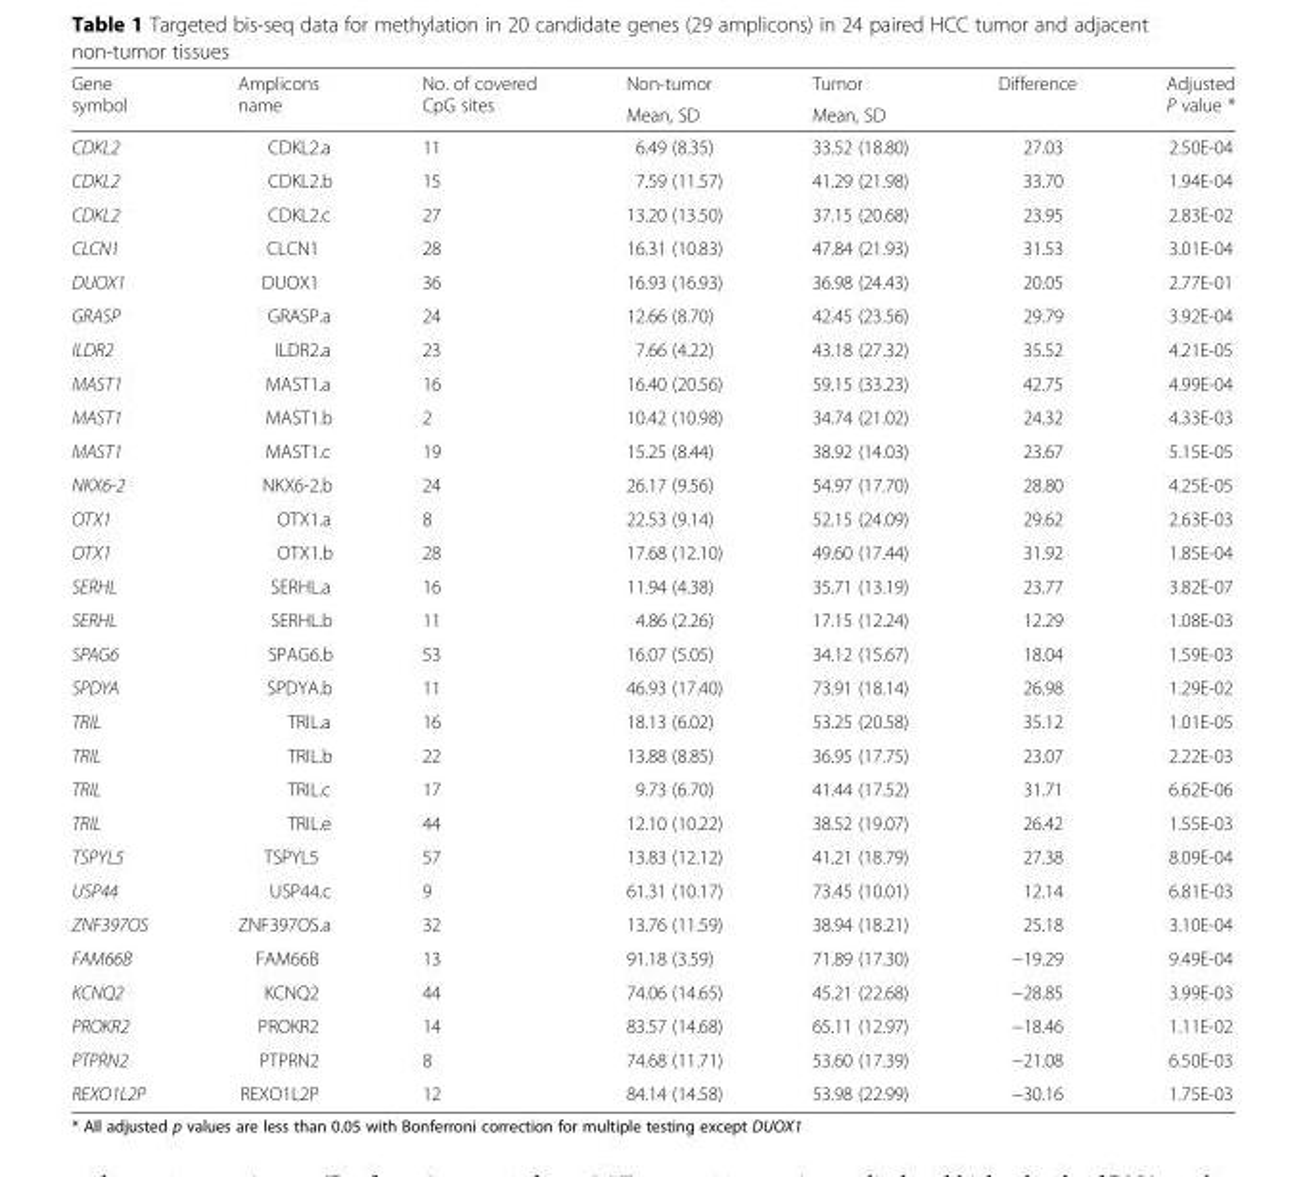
<table><thead><tr><td rowspan="2">Gene symbol</td><td rowspan="2">Amplicons name</td><td rowspan="2">No. of covered CpG sites</td><td rowspan="2">Non-tumor Mean, SD</td><td rowspan="2">Tumor Mean, SD</td><td rowspan="2">Difference</td><td rowspan="2">Adjusted P value *</td></tr><tr></tr></thead><tbody><tr><td>CDKL2</td><td>CDKL2.a</td><td>11</td><td>6.49 (8.35)</td><td>33.52 (18.80)</td><td>27.03</td><td>2.50E-04</td></tr><tr><td>CDKL2</td><td>CDKL2.b</td><td>15</td><td>7.59 (11.57)</td><td>41.29 (21.98)</td><td>33.70</td><td>1.94E-04</td></tr><tr><td>CDKL2</td><td>CDKL2.c</td><td>27</td><td>13.20 (13.50)</td><td>37.15 (20.68)</td><td>23.95</td><td>2.83E-02</td></tr><tr><td>CLCN1</td><td>CLCN1</td><td>28</td><td>16.31 (10.83)</td><td>47.84 (21.93)</td><td>31.53</td><td>3.01E-04</td></tr><tr><td>DUOX1</td><td>DUOX1</td><td>36</td><td>16.93 (16.93)</td><td>36.98 (24.43)</td><td>20.05</td><td>2.77E-01</td></tr><tr><td>GRASP</td><td>GRASP.a</td><td>24</td><td>12.66 (8.70)</td><td>42.45 (23.56)</td><td>29.79</td><td>3.92E-04</td></tr><tr><td>ILDR2</td><td>ILDR2.a</td><td>23</td><td>7.66 (4.22)</td><td>43.18 (27.32)</td><td>35.52</td><td>4.21E-05</td></tr><tr><td>MAST1</td><td>MAST1.a</td><td>16</td><td>16.40 (20.56)</td><td>59.15 (33.23)</td><td>42.75</td><td>4.99E-04</td></tr><tr><td>MAST1</td><td>MAST1.b</td><td>2</td><td>10.42 (10.98)</td><td>34.74 (21.02)</td><td>24.32</td><td>4.33E-03</td></tr><tr><td>MAST1</td><td>MAST1.c</td><td>19</td><td>15.25 (8.44)</td><td>38.92 (14.03)</td><td>23.67</td><td>5.15E-05</td></tr><tr><td>NKX6-2</td><td>NKX6-2.b</td><td>24</td><td>26.17 (9.56)</td><td>54.97 (17.70)</td><td>28.80</td><td>4.25E-05</td></tr><tr><td>OTX1</td><td>OTX1.a</td><td>8</td><td>22.53 (9.14)</td><td>52.15 (24.09)</td><td>29.62</td><td>2.63E-03</td></tr><tr><td>OTX1</td><td>OTX1.b</td><td>28</td><td>17.68 (12.10)</td><td>49.60 (17.44)</td><td>31.92</td><td>1.85E-04</td></tr><tr><td>SERHL</td><td>SERHL.a</td><td>16</td><td>11.94 (4.38)</td><td>35.71 (13.19)</td><td>23.77</td><td>3.82E-07</td></tr><tr><td>SERHL</td><td>SERHL.b</td><td>11</td><td>4.86 (2.26)</td><td>17.15 (12.24)</td><td>12.29</td><td>1.08E-03</td></tr><tr><td>SPAG6</td><td>SPAG6.b</td><td>53</td><td>16.07 (5.05)</td><td>34.12 (15.67)</td><td>18.04</td><td>1.59E-03</td></tr><tr><td>SPDYA</td><td>SPDYA.b</td><td>11</td><td>46.93 (17.40)</td><td>73.91 (18.14)</td><td>26.98</td><td>1.29E-02</td></tr><tr><td>TRIL</td><td>TRIL.a</td><td>16</td><td>18.13 (6.02)</td><td>53.25 (20.58)</td><td>35.12</td><td>1.01E-05</td></tr><tr><td>TRIL</td><td>TRIL.b</td><td>22</td><td>13.88 (8.85)</td><td>36.95 (17.75)</td><td>23.07</td><td>2.22E-03</td></tr><tr><td>TRIL</td><td>TRIL.c</td><td>17</td><td>9.73 (6.70)</td><td>41.44 (17.52)</td><td>31.71</td><td>6.62E-06</td></tr><tr><td>TRIL</td><td>TRIL.e</td><td>44</td><td>12.10 (10.22)</td><td>38.52 (19.07)</td><td>26.42</td><td>1.55E-03</td></tr><tr><td>TSPYL5</td><td>TSPYL5</td><td>57</td><td>13.83 (12.12)</td><td>41.21 (18.79)</td><td>27.38</td><td>8.09E-04</td></tr><tr><td>USP44</td><td>USP44.c</td><td>9</td><td>61.31 (10.17)</td><td>73.45 (10.01)</td><td>12.14</td><td>6.81E-03</td></tr><tr><td>ZNF397OS</td><td>ZNF397OS.a</td><td>32</td><td>13.76 (11.59)</td><td>38.94 (18.21)</td><td>25.18</td><td>3.10E-04</td></tr><tr><td>FAM66B</td><td>FAM66B</td><td>13</td><td>91.18 (3.59)</td><td>71.89 (17.30)</td><td>−19.29</td><td>9.49E-04</td></tr><tr><td>KCNQ2</td><td>KCNQ2</td><td>44</td><td>74.06 (14.65)</td><td>45.21 (22.68)</td><td>−28.85</td><td>3.99E-03</td></tr><tr><td>PROKR2</td><td>PROKR2</td><td>14</td><td>83.57 (14.68)</td><td>65.11 (12.97)</td><td>−18.46</td><td>1.11E-02</td></tr><tr><td>PTPRN2</td><td>PTPRN2</td><td>8</td><td>74.68 (11.71)</td><td>53.60 (17.39)</td><td>−21.08</td><td>6.50E-03</td></tr><tr><td>REXO1L2P</td><td>REXO1L2P</td><td>12</td><td>84.14 (14.58)</td><td>53.98 (22.99)</td><td>−30.16</td><td>1.75E-03</td></tr></tbody></table>